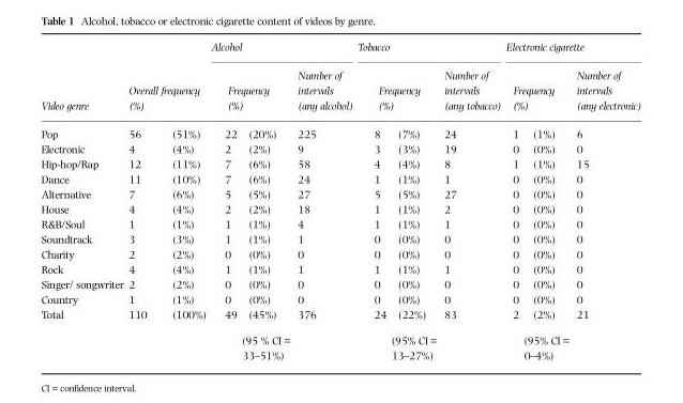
<table><thead><tr><td rowspan="3">Video genre Pop</td><td></td><td></td><td colspan="3">Alcohol</td><td colspan="3">Tobacco</td><td colspan="3">Electronic cigarette</td></tr><tr><td colspan="2">Overall frequency (%)</td><td colspan="2">Frequency (%)</td><td rowspan="2">Number of intervals (any alcohol) 225</td><td colspan="2">Frequency (%)</td><td rowspan="2">Number of intervals (any tobacco) 24</td><td colspan="2">Frequency (%)</td><td rowspan="2">Number of intervals (any electronic) 6</td></tr><tr><td>56</td><td>(51%)</td><td>22</td><td>(20%)</td><td>8</td><td>(7%)</td><td>1</td><td>(1%)</td></tr></thead><tbody><tr><td>Electronic</td><td>4</td><td>(4%)</td><td>2</td><td>(2%)</td><td>9</td><td>3</td><td>(3%)</td><td>19</td><td>0</td><td>(0%)</td><td>0</td></tr><tr><td>Hip-hop/Rap</td><td>12</td><td>(11%)</td><td>7</td><td>(6%)</td><td>58</td><td>4</td><td>(4%)</td><td>8</td><td>1</td><td>(1%)</td><td>15</td></tr><tr><td>Dance</td><td>11</td><td>(10%)</td><td>7</td><td>(6%)</td><td>24</td><td>1</td><td>(1%)</td><td>1</td><td>0</td><td>(0%)</td><td>0</td></tr><tr><td>Alternative</td><td>7</td><td>(6%)</td><td>5</td><td>(5%)</td><td>27</td><td>5</td><td>(5%)</td><td>27</td><td>0</td><td>(0%)</td><td>0</td></tr><tr><td>House</td><td>4</td><td>(4%)</td><td>2</td><td>(2%)</td><td>18</td><td>1</td><td>(1%)</td><td>2</td><td>0</td><td>(0%)</td><td>0</td></tr><tr><td>R&amp;B/Soul</td><td>1</td><td>(1%)</td><td>1</td><td>(1%)</td><td>4</td><td>1</td><td>(1%)</td><td>1</td><td>0</td><td>(0%)</td><td>0</td></tr><tr><td>Soundtrack</td><td>3</td><td>(3%)</td><td>1</td><td>(1%)</td><td>1</td><td>0</td><td>(0%)</td><td>0</td><td>0</td><td>(0%)</td><td>0</td></tr><tr><td>Charity</td><td>2</td><td>(2%)</td><td>0</td><td>(0%)</td><td>0</td><td>0</td><td>(0%)</td><td>0</td><td>0</td><td>(0%)</td><td>0</td></tr><tr><td>Rock</td><td>4</td><td>(4%)</td><td>1</td><td>(1%)</td><td>1</td><td>1</td><td>(1%)</td><td>1</td><td>0</td><td>(0%)</td><td>0</td></tr><tr><td>Singer/ songwriter</td><td>2</td><td>(2%)</td><td>0</td><td>(0%)</td><td>0</td><td>0</td><td>(0%)</td><td>0</td><td>0</td><td>(0%)</td><td>0</td></tr><tr><td>Country</td><td>1</td><td>(1%)</td><td>0</td><td>(0%)</td><td>0</td><td>0</td><td>(0%)</td><td>0</td><td>0</td><td>(0%)</td><td>0</td></tr><tr><td rowspan="2">Total</td><td>110</td><td>(100%)</td><td>49</td><td>(45%)</td><td>376</td><td>24</td><td>(22%)</td><td>83</td><td>2</td><td>(2%)</td><td>21</td></tr><tr><td></td><td></td><td></td><td>(95 % CI = 33–51%)</td><td></td><td></td><td>(95% CI = 13–27%)</td><td></td><td></td><td>(95% CI = 0–4%)</td><td></td></tr></tbody></table>